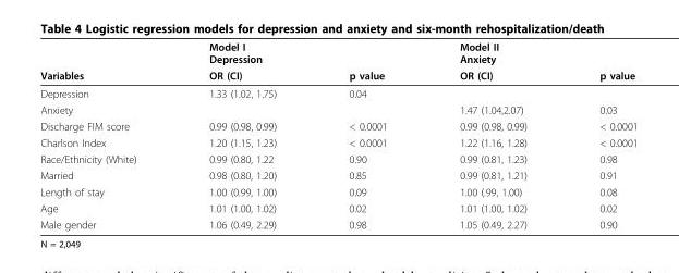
<table><thead><tr><td rowspan="2">Variables</td><td rowspan="2">Model I Depression OR (CI)</td><td rowspan="2">p value</td><td rowspan="2">Model II Anxiety OR (CI)</td><td rowspan="2">p value</td></tr><tr></tr></thead><tbody><tr><td>Depression</td><td>1.33 (1.02, 1.75)</td><td>0.04</td><td></td><td></td></tr><tr><td>Anxiety</td><td></td><td></td><td>1.47 (1.04,2.07)</td><td>0.03</td></tr><tr><td>Discharge FIM score</td><td>0.99 (0.98, 0.99)</td><td>&lt; 0.0001</td><td>0.99 (0.98, 0.99)</td><td>&lt; 0.0001</td></tr><tr><td>Charlson Index</td><td>1.20 (1.15, 1.23)</td><td>&lt; 0.0001</td><td>1.22 (1.16, 1.28)</td><td>&lt; 0.0001</td></tr><tr><td>Race/Ethnicity (White)</td><td>0.99 (0.80, 1.22</td><td>0.90</td><td>0.99 (0.81, 1.23)</td><td>0.98</td></tr><tr><td>Married</td><td>0.98 (0.80, 1.20)</td><td>0.85</td><td>0.99 (0.81, 1.21)</td><td>0.91</td></tr><tr><td>Length of stay</td><td>1.00 (0.99, 1.00)</td><td>0.09</td><td>1.00 (.99, 1.00)</td><td>0.08</td></tr><tr><td>Age</td><td>1.01 (1.00, 1.02)</td><td>0.02</td><td>1.01 (1.00, 1.02)</td><td>0.02</td></tr><tr><td>Male gender</td><td>1.06 (0.49, 2.29)</td><td>0.98</td><td>1.05 (0.49, 2.27)</td><td>0.90</td></tr></tbody></table>